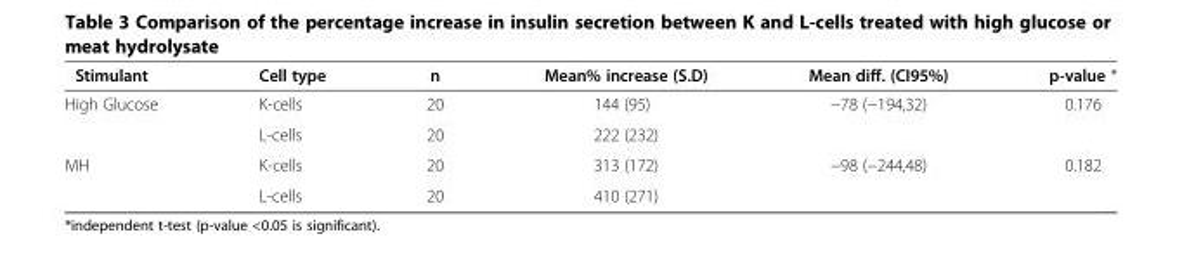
<table><thead><tr><td>Stimulant</td><td>Cell type</td><td>n</td><td>Mean% increase (S.D)</td><td>Mean diff. (CI95%)</td><td>p-value *</td></tr></thead><tbody><tr><td rowspan="2">High Glucose</td><td>K-cells</td><td>20</td><td>144 (95)</td><td>−78 (−194,32)</td><td>0.176</td></tr><tr><td>L-cells</td><td>20</td><td>222 (232)</td><td></td><td></td></tr><tr><td rowspan="2">MH</td><td>K-cells</td><td>20</td><td>313 (172)</td><td>−98 (−244,48)</td><td>0.182</td></tr><tr><td>L-cells</td><td>20</td><td>410 (271)</td><td></td><td></td></tr></tbody></table>